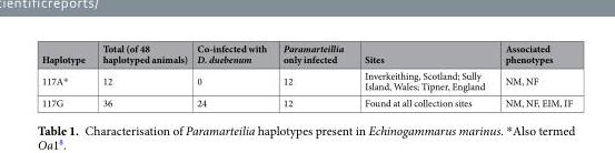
<table><thead><tr><td>Haplotype</td><td>Total (of 48 haplotyped animals)</td><td>Co-infected with D. duebenum</td><td>Paramarteillia only infected</td><td>Sites</td><td>Associated phenotypes</td></tr></thead><tbody><tr><td>117A*</td><td>12</td><td>0</td><td>12</td><td>Inverkeithing, Scotland; Sully Island, Wales; Tipner, England</td><td>NM, NF</td></tr><tr><td>117G</td><td>36</td><td>24</td><td>12</td><td>Found at all collection sites</td><td>NM, NF, EIM, IF</td></tr></tbody></table>